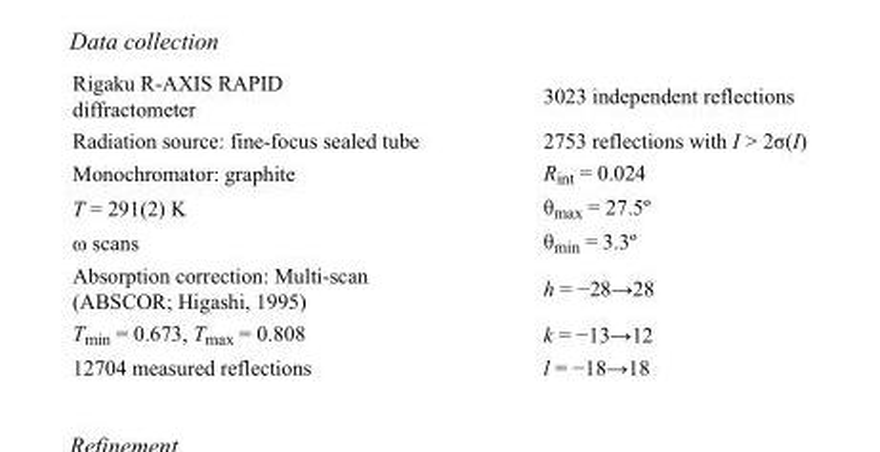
<table><tbody><tr><td>Rigaku R-AXIS RAPID diffractometer</td><td>3023 independent reflections</td></tr><tr><td>Radiation source: fine-focus sealed tube</td><td>2753 reflections with I &gt; 2σ(I)</td></tr><tr><td>Monochromator: graphite</td><td>R<sub>int</sub> = 0.024</td></tr><tr><td>T = 291(2) K</td><td>θ<sub>max</sub> = 27.5º</td></tr><tr><td>ω scans</td><td>θ<sub>min</sub> = 3.3º</td></tr><tr><td>Absorption correction: Multi-scan (ABSCOR; Higashi, 1995)</td><td>h = −28→28</td></tr><tr><td>T<sub>min</sub> = 0.673, T<sub>max</sub> = 0.808</td><td>k = −13→12</td></tr><tr><td>12704 measured reflections</td><td>l = −18→18</td></tr></tbody></table>